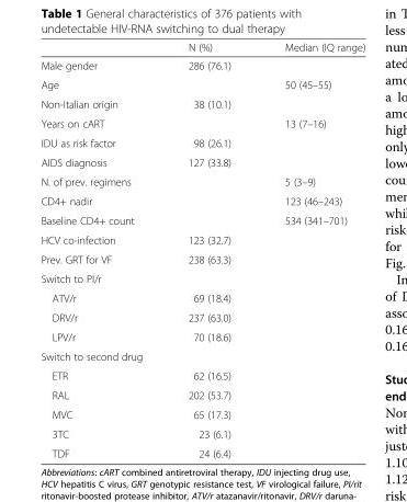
<table><thead><tr><td></td><td>N (%)</td><td>Median (IQ range)</td></tr></thead><tbody><tr><td>Male gender</td><td>286 (76.1)</td><td></td></tr><tr><td>Age</td><td></td><td>50 (45–55)</td></tr><tr><td>Non-Italian origin</td><td>38 (10.1)</td><td></td></tr><tr><td>Years on cART</td><td></td><td>13 (7–16)</td></tr><tr><td>IDU as risk factor</td><td>98 (26.1)</td><td></td></tr><tr><td>AIDS diagnosis</td><td>127 (33.8)</td><td></td></tr><tr><td>N. of prev. regimens</td><td></td><td>5 (3–9)</td></tr><tr><td>CD4+ nadir</td><td></td><td>123 (46–243)</td></tr><tr><td>Baseline CD4+ count</td><td></td><td>534 (341–701)</td></tr><tr><td>HCV co-infection</td><td>123 (32.7)</td><td></td></tr><tr><td>Prev. GRT for VF</td><td>238 (63.3)</td><td></td></tr><tr><td colspan="3">Switch to PI/r</td></tr><tr><td>ATV/r</td><td>69 (18.4)</td><td rowspan="3"></td></tr><tr><td>DRV/r</td><td>237 (63.0)</td></tr><tr><td>LPV/r</td><td>70 (18.6)</td></tr><tr><td colspan="3">Switch to second drug</td></tr><tr><td>ETR</td><td>62 (16.5)</td><td rowspan="5"></td></tr><tr><td>RAL</td><td>202 (53.7)</td></tr><tr><td>MVC</td><td>65 (17.3)</td></tr><tr><td>3TC</td><td>23 (6.1)</td></tr><tr><td>TDF</td><td>24 (6.4)</td></tr></tbody></table>